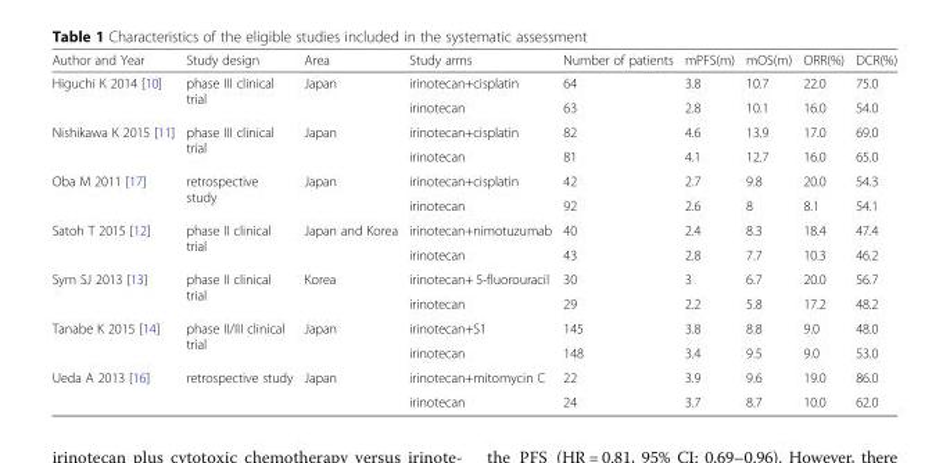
<table><thead><tr><td>Author and Year</td><td>Study design</td><td>Area</td><td>Study arms</td><td>Number of patients</td><td>mPFS(m)</td><td>mOS(m)</td><td>ORR(%)</td><td>DCR(%)</td></tr></thead><tbody><tr><td rowspan="2">Higuchi K 2014 [10]</td><td rowspan="2">phase III clinical trial</td><td rowspan="2">Japan</td><td>irinotecan+cisplatin</td><td>64</td><td>3.8</td><td>10.7</td><td>22.0</td><td>75.0</td></tr><tr><td>irinotecan</td><td>63</td><td>2.8</td><td>10.1</td><td>16.0</td><td>54.0</td></tr><tr><td rowspan="2">Nishikawa K 2015 [11]</td><td rowspan="2">phase III clinical trial</td><td rowspan="2">Japan</td><td>irinotecan+cisplatin</td><td>82</td><td>4.6</td><td>13.9</td><td>17.0</td><td>69.0</td></tr><tr><td>irinotecan</td><td>81</td><td>4.1</td><td>12.7</td><td>16.0</td><td>65.0</td></tr><tr><td rowspan="2">Oba M 2011 [17]</td><td rowspan="2">retrospective study</td><td rowspan="2">Japan</td><td>irinotecan+cisplatin</td><td>42</td><td>2.7</td><td>9.8</td><td>20.0</td><td>54.3</td></tr><tr><td>irinotecan</td><td>92</td><td>2.6</td><td>8</td><td>8.1</td><td>54.1</td></tr><tr><td rowspan="2">Satoh T 2015 [12]</td><td rowspan="2">phase II clinical trial</td><td rowspan="2">Japan and Korea</td><td>irinotecan+nimotuzumab</td><td>40</td><td>2.4</td><td>8.3</td><td>18.4</td><td>47.4</td></tr><tr><td>irinotecan</td><td>43</td><td>2.8</td><td>7.7</td><td>10.3</td><td>46.2</td></tr><tr><td rowspan="2">Sym SJ 2013 [13]</td><td rowspan="2">phase II clinical trial</td><td rowspan="2">Korea</td><td>irinotecan+ 5-fluorouracil</td><td>30</td><td>3</td><td>6.7</td><td>20.0</td><td>56.7</td></tr><tr><td>irinotecan</td><td>29</td><td>2.2</td><td>5.8</td><td>17.2</td><td>48.2</td></tr><tr><td rowspan="2">Tanabe K 2015 [14]</td><td rowspan="2">phase II/III clinical trial</td><td rowspan="2">Japan</td><td>irinotecan+S1</td><td>145</td><td>3.8</td><td>8.8</td><td>9.0</td><td>48.0</td></tr><tr><td>irinotecan</td><td>148</td><td>3.4</td><td>9.5</td><td>9.0</td><td>53.0</td></tr><tr><td rowspan="2">Ueda A 2013 [16]</td><td rowspan="2">retrospective study</td><td rowspan="2">Japan</td><td>irinotecan+mitomycin C</td><td>22</td><td>3.9</td><td>9.6</td><td>19.0</td><td>86.0</td></tr><tr><td>irinotecan</td><td>24</td><td>3.7</td><td>8.7</td><td>10.0</td><td>62.0</td></tr></tbody></table>